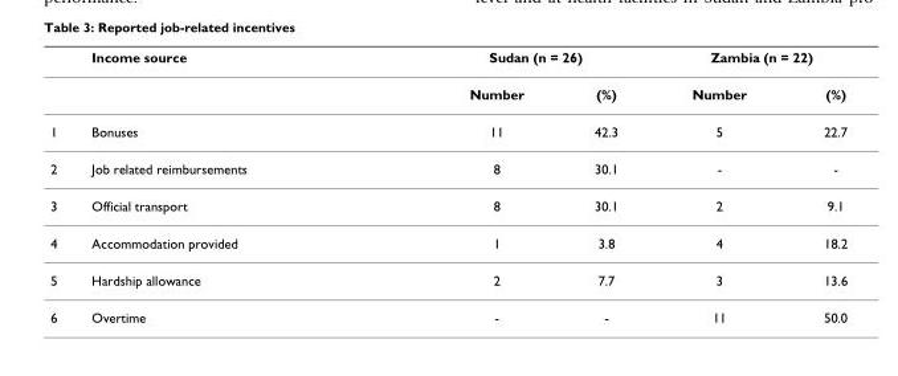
<table><thead><tr><td rowspan="2"></td><td rowspan="2">Income source</td><td colspan="2">Sudan (n = 26)</td><td colspan="2">Zambia (n = 22)</td></tr><tr><td>Number</td><td>(%)</td><td>Number</td><td>(%)</td></tr></thead><tbody><tr><td>1</td><td>Bonuses</td><td>11</td><td>42.3</td><td>5</td><td>22.7</td></tr><tr><td>2</td><td>Job related reimbursements</td><td>8</td><td>30.1</td><td>-</td><td>-</td></tr><tr><td>3</td><td>Official transport</td><td>8</td><td>30.1</td><td>2</td><td>9.1</td></tr><tr><td>4</td><td>Accommodation provided</td><td>1</td><td>3.8</td><td>4</td><td>18.2</td></tr><tr><td>5</td><td>Hardship allowance</td><td>2</td><td>7.7</td><td>3</td><td>13.6</td></tr><tr><td>6</td><td>Overtime</td><td>-</td><td>-</td><td>11</td><td>50.0</td></tr></tbody></table>